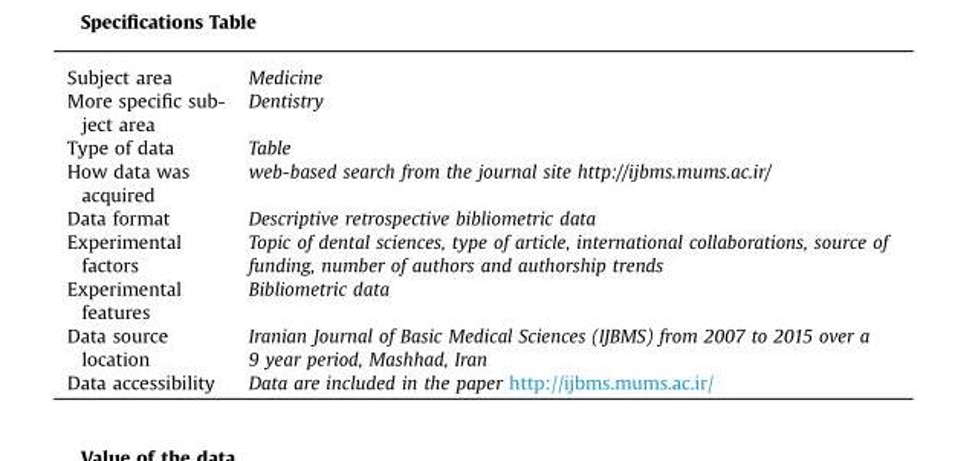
<table><tbody><tr><td>Subject area</td><td>Medicine</td></tr><tr><td>More specific sub- ject area</td><td>Dentistry</td></tr><tr><td>Type of data</td><td>Table</td></tr><tr><td>How data was acquired</td><td>web-based search from the journal site http://ijbms.mums.ac.ir/</td></tr><tr><td>Data format</td><td>Descriptive retrospective bibliometric data</td></tr><tr><td>Experimental factors</td><td>Topic of dental sciences, type of article, international collaborations, source of funding, number of authors and authorship trends</td></tr><tr><td>Experimental features</td><td>Bibliometric data</td></tr><tr><td>Data source location</td><td>Iranian Journal of Basic Medical Sciences (IJBMS) from 2007 to 2015 over a 9 year period, Mashhad, Iran</td></tr><tr><td>Data accessibility</td><td>Data are included in the paper http://ijbms.mums.ac.ir/</td></tr></tbody></table>